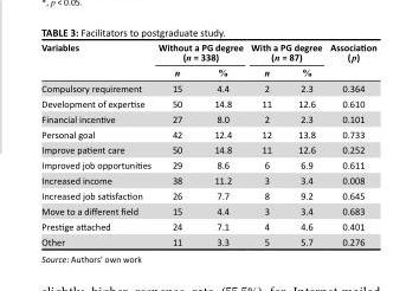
<table><thead><tr><td rowspan="2">Variables</td><td colspan="2">Without a PG degree (n = 338)</td><td colspan="2">With a PG degree (n = 87)</td><td rowspan="2">Association ( p)</td></tr><tr><td>n</td><td>%</td><td>n</td><td>%</td></tr></thead><tbody><tr><td>Compulsory requirement</td><td>15</td><td>4.4</td><td>2</td><td>2.3</td><td>0.364</td></tr><tr><td>Development of expertise</td><td>50</td><td>14.8</td><td>11</td><td>12.6</td><td>0.610</td></tr><tr><td>Financial incentive</td><td>27</td><td>8.0</td><td>2</td><td>2.3</td><td>0.101</td></tr><tr><td>Personal goal</td><td>42</td><td>12.4</td><td>12</td><td>13.8</td><td>0.733</td></tr><tr><td>Improve patient care</td><td>50</td><td>14.8</td><td>11</td><td>12.6</td><td>0.252</td></tr><tr><td>Improved job opportunities</td><td>29</td><td>8.6</td><td>6</td><td>6.9</td><td>0.611</td></tr><tr><td>Increased income</td><td>38</td><td>11.2</td><td>3</td><td>3.4</td><td>0.008</td></tr><tr><td>Increased job satisfaction</td><td>26</td><td>7.7</td><td>8</td><td>9.2</td><td>0.645</td></tr><tr><td>Move to a different field</td><td>15</td><td>4.4</td><td>3</td><td>3.4</td><td>0.683</td></tr><tr><td>Prestige attached</td><td>24</td><td>7.1</td><td>4</td><td>4.6</td><td>0.401</td></tr><tr><td>Other</td><td>11</td><td>3.3</td><td>5</td><td>5.7</td><td>0.276</td></tr></tbody></table>